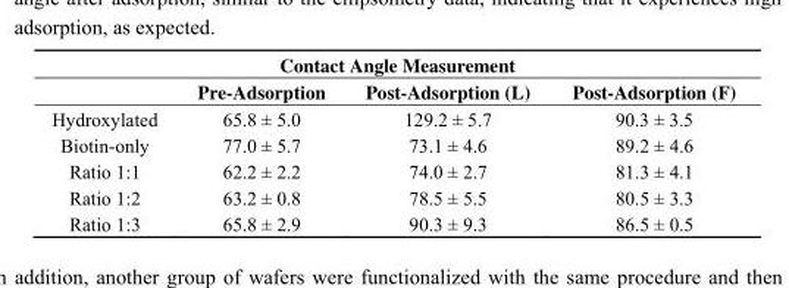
<table><thead><tr><td colspan="4">Contact Angle Measurement</td></tr><tr><td></td><td>Pre-Adsorption</td><td>Post-Adsorption (L)</td><td>Post-Adsorption (F)</td></tr></thead><tbody><tr><td>Hydroxylated</td><td>65.8 ± 5.0</td><td>129.2 ± 5.7</td><td>90.3 ± 3.5</td></tr><tr><td>Biotin-only</td><td>77.0 ± 5.7</td><td>73.1 ± 4.6</td><td>89.2 ± 4.6</td></tr><tr><td>Ratio 1:1</td><td>62.2 ± 2.2</td><td>74.0 ± 2.7</td><td>81.3 ± 4.1</td></tr><tr><td>Ratio 1:2</td><td>63.2 ± 0.8</td><td>78.5 ± 5.5</td><td>80.5 ± 3.3</td></tr><tr><td>Ratio 1:3</td><td>65.8 ± 2.9</td><td>90.3 ± 9.3</td><td>86.5 ± 0.5</td></tr></tbody></table>